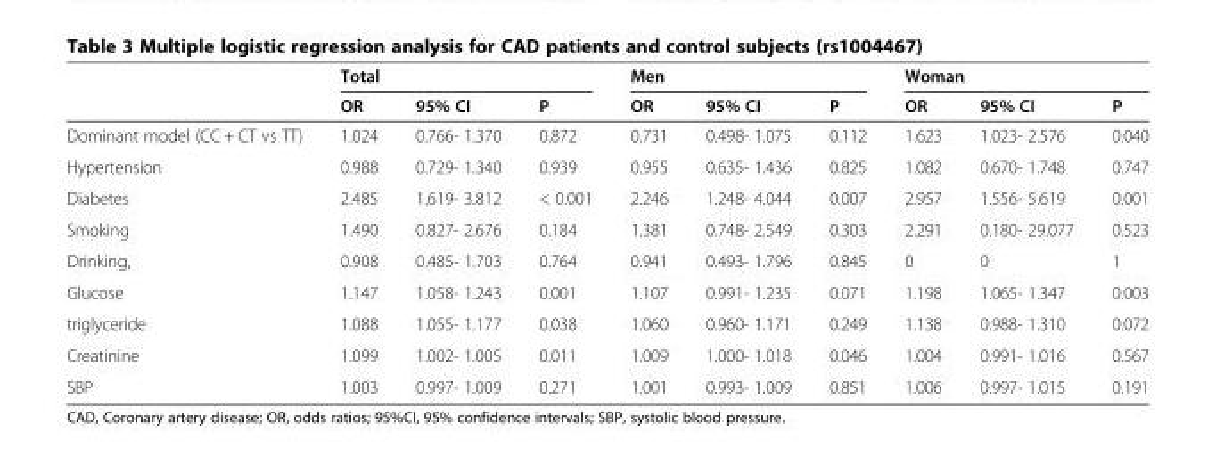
<table><thead><tr><td rowspan="2"></td><td colspan="3">Total</td><td colspan="3">Men</td><td colspan="3">Woman</td></tr><tr><td>OR</td><td>95% CI</td><td>P</td><td>OR</td><td>95% CI</td><td>P</td><td>OR</td><td>95% CI</td><td>P</td></tr></thead><tbody><tr><td>Dominant model (CC + CT vs TT)</td><td>1.024</td><td>0.766- 1.370</td><td>0.872</td><td>0.731</td><td>0.498- 1.075</td><td>0.112</td><td>1.623</td><td>1.023- 2.576</td><td>0.040</td></tr><tr><td>Hypertension</td><td>0.988</td><td>0.729- 1.340</td><td>0.939</td><td>0.955</td><td>0.635- 1.436</td><td>0.825</td><td>1.082</td><td>0.670- 1.748</td><td>0.747</td></tr><tr><td>Diabetes</td><td>2.485</td><td>1.619- 3.812</td><td>&lt; 0.001</td><td>2.246</td><td>1.248- 4.044</td><td>0.007</td><td>2.957</td><td>1.556- 5.619</td><td>0.001</td></tr><tr><td>Smoking</td><td>1.490</td><td>0.827- 2.676</td><td>0.184</td><td>1.381</td><td>0.748- 2.549</td><td>0.303</td><td>2.291</td><td>0.180- 29.077</td><td>0.523</td></tr><tr><td>Drinking,</td><td>0.908</td><td>0.485- 1.703</td><td>0.764</td><td>0.941</td><td>0.493- 1.796</td><td>0.845</td><td>0</td><td>0</td><td>1</td></tr><tr><td>Glucose</td><td>1.147</td><td>1.058- 1.243</td><td>0.001</td><td>1.107</td><td>0.991- 1.235</td><td>0.071</td><td>1.198</td><td>1.065- 1.347</td><td>0.003</td></tr><tr><td>triglyceride</td><td>1.088</td><td>1.055- 1.177</td><td>0.038</td><td>1.060</td><td>0.960- 1.171</td><td>0.249</td><td>1.138</td><td>0.988- 1.310</td><td>0.072</td></tr><tr><td>Creatinine</td><td>1.099</td><td>1.002- 1.005</td><td>0.011</td><td>1.009</td><td>1.000- 1.018</td><td>0.046</td><td>1.004</td><td>0.991- 1.016</td><td>0.567</td></tr><tr><td>SBP</td><td>1.003</td><td>0.997- 1.009</td><td>0.271</td><td>1.001</td><td>0.993- 1.009</td><td>0.851</td><td>1.006</td><td>0.997- 1.015</td><td>0.191</td></tr></tbody></table>